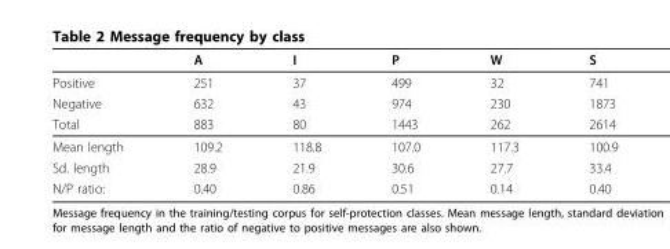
<table><thead><tr><td></td><td>A</td><td>I</td><td>P</td><td>W</td><td>S</td></tr></thead><tbody><tr><td>Positive</td><td>251</td><td>37</td><td>499</td><td>32</td><td>741</td></tr><tr><td>Negative</td><td>632</td><td>43</td><td>974</td><td>230</td><td>1873</td></tr><tr><td>Total</td><td>883</td><td>80</td><td>1443</td><td>262</td><td>2614</td></tr><tr><td>Mean length</td><td>109.2</td><td>118.8</td><td>107.0</td><td>117.3</td><td>100.9</td></tr><tr><td>Sd. length</td><td>28.9</td><td>21.9</td><td>30.6</td><td>27.7</td><td>33.4</td></tr><tr><td>N/P ratio:</td><td>0.40</td><td>0.86</td><td>0.51</td><td>0.14</td><td>0.40</td></tr></tbody></table>